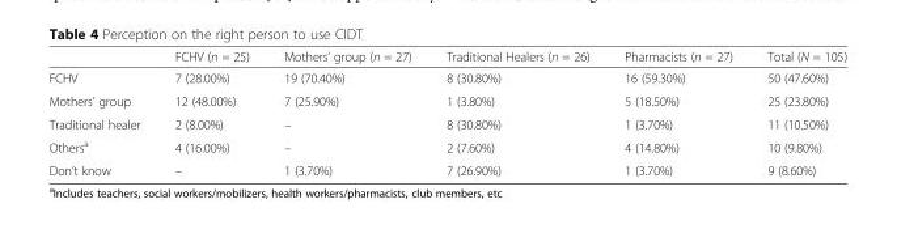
<table><thead><tr><td></td><td>FCHV (n = 25)</td><td>Mothers’ group (n = 27)</td><td>Traditional Healers (n = 26)</td><td>Pharmacists (n = 27)</td><td>Total (N = 105)</td></tr></thead><tbody><tr><td>FCHV</td><td>7 (28.00%)</td><td>19 (70.40%)</td><td>8 (30.80%)</td><td>16 (59.30%)</td><td>50 (47.60%)</td></tr><tr><td>Mothers’ group</td><td>12 (48.00%)</td><td>7 (25.90%)</td><td>1 (3.80%)</td><td>5 (18.50%)</td><td>25 (23.80%)</td></tr><tr><td>Traditional healer</td><td>2 (8.00%)</td><td>–</td><td>8 (30.80%)</td><td>1 (3.70%)</td><td>11 (10.50%)</td></tr><tr><td>Others<sup>a</sup></td><td>4 (16.00%)</td><td>–</td><td>2 (7.60%)</td><td>4 (14.80%)</td><td>10 (9.80%)</td></tr><tr><td>Don’t know</td><td>–</td><td>1 (3.70%)</td><td>7 (26.90%)</td><td>1 (3.70%)</td><td>9 (8.60%)</td></tr></tbody></table>